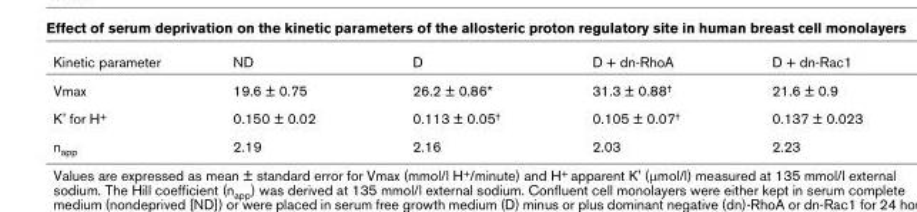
<table><thead><tr><td>Kinetic parameter</td><td>ND</td><td>D</td><td>D + dn-RhoA</td><td>D + dn-Rac1</td></tr></thead><tbody><tr><td>Vmax</td><td>19.6 ± 0.75</td><td>26.2 ± 0.86*</td><td>31.3 ± 0.88†</td><td>21.6 ± 0.9</td></tr><tr><td>K&#x27; for H+</td><td>0.150 ± 0.02</td><td>0.113 ± 0.05†</td><td>0.105 ± 0.07†</td><td>0.137 ± 0.023</td></tr><tr><td>napp</td><td>2.19</td><td>2.16</td><td>2.03</td><td>2.23</td></tr></tbody></table>